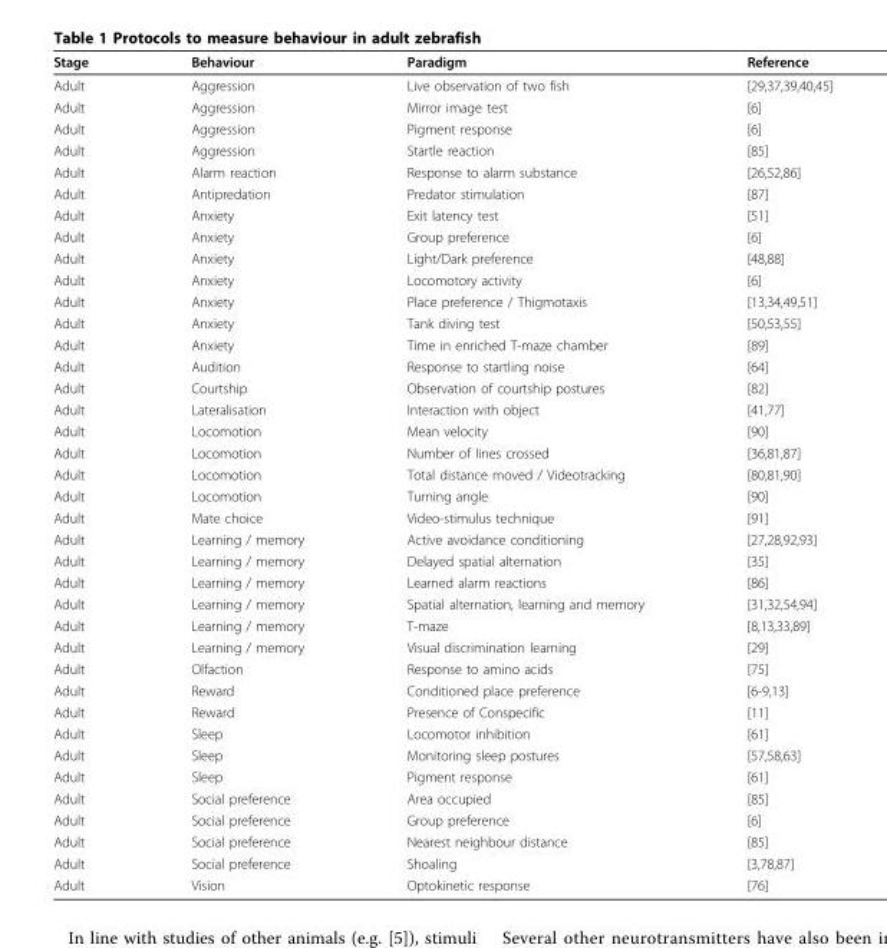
<table><thead><tr><td>Stage</td><td>Behaviour</td><td>Paradigm</td><td>Reference</td></tr></thead><tbody><tr><td>Adult</td><td>Aggression</td><td>Live observation of two fish</td><td>[29,37,39,40,45]</td></tr><tr><td>Adult</td><td>Aggression</td><td>Mirror image test</td><td>[6]</td></tr><tr><td>Adult</td><td>Aggression</td><td>Pigment response</td><td>[6]</td></tr><tr><td>Adult</td><td>Aggression</td><td>Startle reaction</td><td>[85]</td></tr><tr><td>Adult</td><td>Alarm reaction</td><td>Response to alarm substance</td><td>[26,52,86]</td></tr><tr><td>Adult</td><td>Antipredation</td><td>Predator stimulation</td><td>[87]</td></tr><tr><td>Adult</td><td>Anxiety</td><td>Exit latency test</td><td>[51]</td></tr><tr><td>Adult</td><td>Anxiety</td><td>Group preference</td><td>[6]</td></tr><tr><td>Adult</td><td>Anxiety</td><td>Light/Dark preference</td><td>[48,88]</td></tr><tr><td>Adult</td><td>Anxiety</td><td>Locomotory activity</td><td>[6]</td></tr><tr><td>Adult</td><td>Anxiety</td><td>Place preference / Thigmotaxis</td><td>[13,34,49,51]</td></tr><tr><td>Adult</td><td>Anxiety</td><td>Tank diving test</td><td>[50,53,55]</td></tr><tr><td>Adult</td><td>Anxiety</td><td>Time in enriched T-maze chamber</td><td>[89]</td></tr><tr><td>Adult</td><td>Audition</td><td>Response to startling noise</td><td>[64]</td></tr><tr><td>Adult</td><td>Courtship</td><td>Observation of courtship postures</td><td>[82]</td></tr><tr><td>Adult</td><td>Lateralisation</td><td>Interaction with object</td><td>[41,77]</td></tr><tr><td>Adult</td><td>Locomotion</td><td>Mean velocity</td><td>[90]</td></tr><tr><td>Adult</td><td>Locomotion</td><td>Number of lines crossed</td><td>[36,81,87]</td></tr><tr><td>Adult</td><td>Locomotion</td><td>Total distance moved / Videotracking</td><td>[80,81,90]</td></tr><tr><td>Adult</td><td>Locomotion</td><td>Turning angle</td><td>[90]</td></tr><tr><td>Adult</td><td>Mate choice</td><td>Video-stimulus technique</td><td>[91]</td></tr><tr><td>Adult</td><td>Learning / memory</td><td>Active avoidance conditioning</td><td>[27,28,92,93]</td></tr><tr><td>Adult</td><td>Learning / memory</td><td>Delayed spatial alternation</td><td>[35]</td></tr><tr><td>Adult</td><td>Learning / memory</td><td>Learned alarm reactions</td><td>[86]</td></tr><tr><td>Adult</td><td>Learning / memory</td><td>Spatial alternation, learning and memory</td><td>[31,32,54,94]</td></tr><tr><td>Adult</td><td>Learning / memory</td><td>T-maze</td><td>[8,13,33,89]</td></tr><tr><td>Adult</td><td>Learning / memory</td><td>Visual discrimination learning</td><td>[29]</td></tr><tr><td>Adult</td><td>Olfaction</td><td>Response to amino acids</td><td>[75]</td></tr><tr><td>Adult</td><td>Reward</td><td>Conditioned place preference</td><td>[6-9,13]</td></tr><tr><td>Adult</td><td>Reward</td><td>Presence of Conspecific</td><td>[11]</td></tr><tr><td>Adult</td><td>Sleep</td><td>Locomotor inhibition</td><td>[61]</td></tr><tr><td>Adult</td><td>Sleep</td><td>Monitoring sleep postures</td><td>[57,58,63]</td></tr><tr><td>Adult</td><td>Sleep</td><td>Pigment response</td><td>[61]</td></tr><tr><td>Adult</td><td>Social preference</td><td>Area occupied</td><td>[85]</td></tr><tr><td>Adult</td><td>Social preference</td><td>Group preference</td><td>[6]</td></tr><tr><td>Adult</td><td>Social preference</td><td>Nearest neighbour distance</td><td>[85]</td></tr><tr><td>Adult</td><td>Social preference</td><td>Shoaling</td><td>[3,78,87]</td></tr><tr><td>Adult</td><td>Vision</td><td>Optokinetic response</td><td>[76]</td></tr></tbody></table>